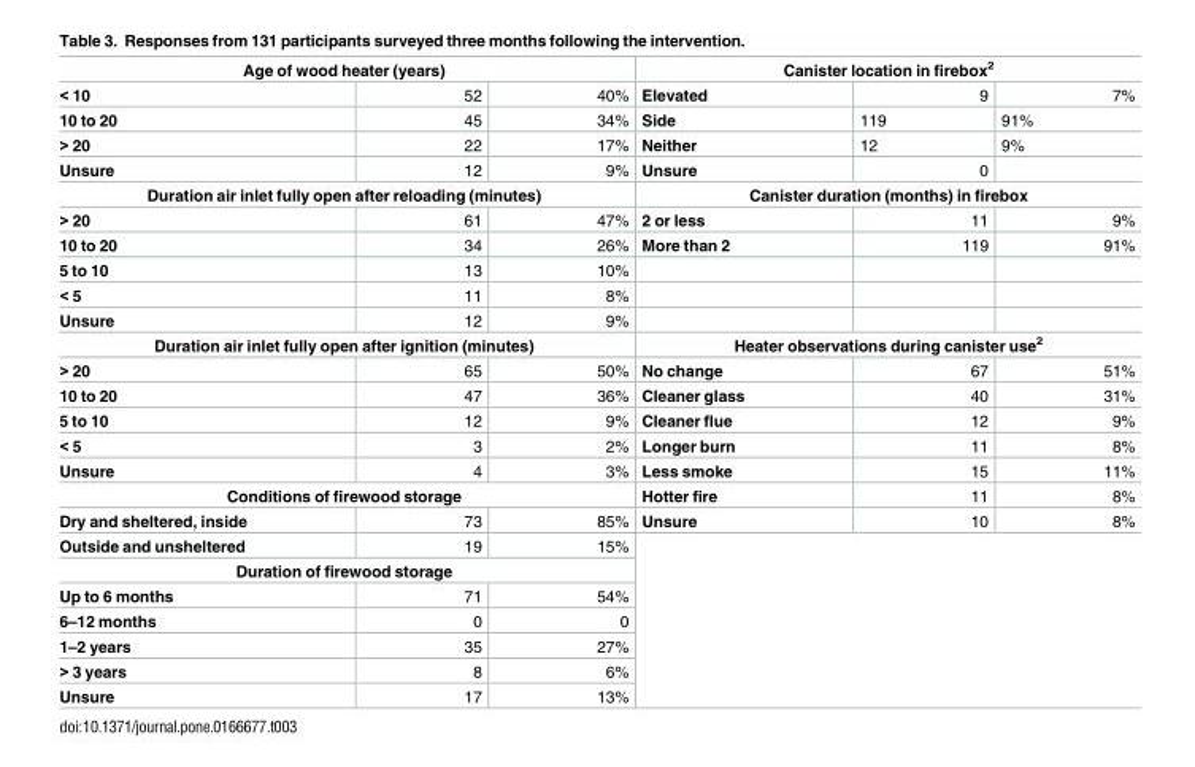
<table><tbody><tr><td colspan="3">Age of wood heater (years)</td><td colspan="3">Canister location in firebox<sup>2</sup></td></tr><tr><td>&lt; 10</td><td>52</td><td>40%</td><td>Elevated</td><td>9</td><td>7%</td></tr><tr><td>10 to 20</td><td>45</td><td>34%</td><td>Side</td><td>119</td><td>91%</td></tr><tr><td>&gt; 20</td><td>22</td><td>17%</td><td>Neither</td><td>12</td><td>9%</td></tr><tr><td>Unsure</td><td>12</td><td>9%</td><td>Unsure</td><td>0</td><td></td></tr><tr><td colspan="3">Duration air inlet fully open after reloading (minutes)</td><td colspan="3">Canister duration (months) in firebox</td></tr><tr><td>&gt; 20</td><td>61</td><td>47%</td><td>2 or less</td><td>11</td><td>9%</td></tr><tr><td>10 to 20</td><td>34</td><td>26%</td><td>More than 2</td><td>119</td><td>91%</td></tr><tr><td>5 to 10</td><td>13</td><td>10%</td><td></td><td></td><td></td></tr><tr><td>&lt; 5</td><td>11</td><td>8%</td><td></td><td></td><td></td></tr><tr><td>Unsure</td><td>12</td><td>9%</td><td></td><td></td><td></td></tr><tr><td colspan="3">Duration air inlet fully open after ignition (minutes)</td><td colspan="3">Heater observations during canister use<sup>2</sup></td></tr><tr><td>&gt; 20</td><td>65</td><td>50%</td><td>No change</td><td>67</td><td>51%</td></tr><tr><td>10 to 20</td><td>47</td><td>36%</td><td>Cleaner glass</td><td>40</td><td>31%</td></tr><tr><td>5 to 10</td><td>12</td><td>9%</td><td>Cleaner flue</td><td>12</td><td>9%</td></tr><tr><td>&lt; 5</td><td>3</td><td>2%</td><td>Longer burn</td><td>11</td><td>8%</td></tr><tr><td>Unsure</td><td>4</td><td>3%</td><td>Less smoke</td><td>15</td><td>11%</td></tr><tr><td colspan="3">Conditions of firewood storage</td><td>Hotter fire</td><td>11</td><td>8%</td></tr><tr><td>Dry and sheltered, inside</td><td>73</td><td>85%</td><td>Unsure</td><td>10</td><td>8%</td></tr><tr><td>Outside and unsheltered</td><td>19</td><td>15%</td><td rowspan="7" colspan="3"></td></tr><tr><td colspan="3">Duration of firewood storage</td></tr><tr><td>Up to 6 months</td><td>71</td><td>54%</td></tr><tr><td>6–12 months</td><td>0</td><td>0</td></tr><tr><td>1–2 years</td><td>35</td><td>27%</td></tr><tr><td>&gt; 3 years</td><td>8</td><td>6%</td></tr><tr><td>Unsure</td><td>17</td><td>13%</td></tr></tbody></table>